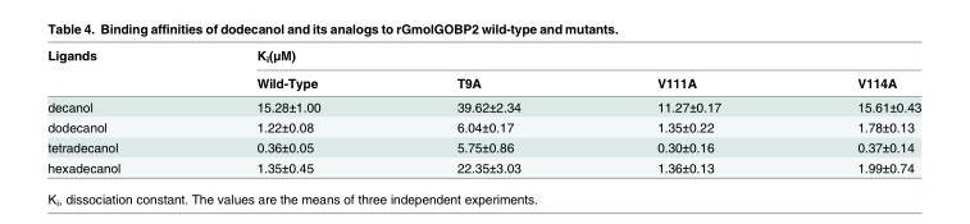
<table><thead><tr><td rowspan="2">Ligands</td><td colspan="4">K<sub>i</sub>(μM)</td></tr><tr><td>Wild-Type</td><td>T9A</td><td>V111A</td><td>V114A</td></tr></thead><tbody><tr><td>decanol</td><td>15.28±1.00</td><td>39.62±2.34</td><td>11.27±0.17</td><td>15.61±0.43</td></tr><tr><td>dodecanol</td><td>1.22±0.08</td><td>6.04±0.17</td><td>1.35±0.22</td><td>1.78±0.13</td></tr><tr><td>tetradecanol</td><td>0.36±0.05</td><td>5.75±0.86</td><td>0.30±0.16</td><td>0.37±0.14</td></tr><tr><td>hexadecanol</td><td>1.35±0.45</td><td>22.35±3.03</td><td>1.36±0.13</td><td>1.99±0.74</td></tr></tbody></table>